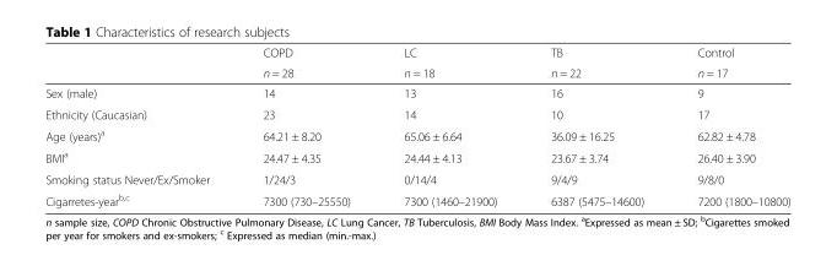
<table><thead><tr><td rowspan="2"></td><td rowspan="2">COPD n = 28</td><td rowspan="2">LC n = 18</td><td rowspan="2">TB n = 22</td><td rowspan="2">Control n = 17</td></tr><tr></tr></thead><tbody><tr><td>Sex (male)</td><td>14</td><td>13</td><td>16</td><td>9</td></tr><tr><td>Ethnicity (Caucasian)</td><td>23</td><td>14</td><td>10</td><td>17</td></tr><tr><td>Age (years)<sup>a</sup></td><td>64.21 ± 8.20</td><td>65.06 ± 6.64</td><td>36.09 ± 16.25</td><td>62.82 ± 4.78</td></tr><tr><td>BMI<sup>a</sup></td><td>24.47 ± 4.35</td><td>24.44 ± 4.13</td><td>23.67 ± 3.74</td><td>26.40 ± 3.90</td></tr><tr><td>Smoking status Never/Ex/Smoker</td><td>1/24/3</td><td>0/14/4</td><td>9/4/9</td><td>9/8/0</td></tr><tr><td>Cigarretes-year<sup>b,c</sup></td><td>7300 (730–25550)</td><td>7300 (1460–21900)</td><td>6387 (5475–14600)</td><td>7200 (1800–10800)</td></tr></tbody></table>